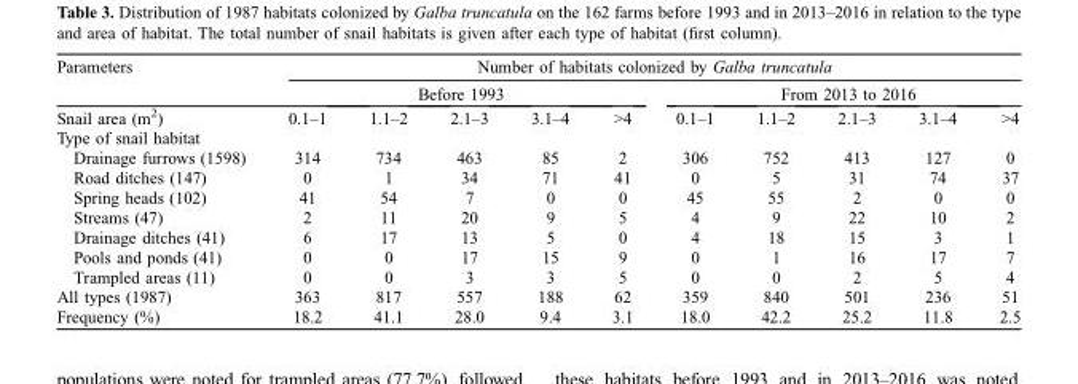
<table><thead><tr><td rowspan="3">Parameters Snail area (m<sup>2</sup>)</td><td colspan="10">Number of habitats colonized by Galba truncatula</td></tr><tr><td colspan="5">Before 1993</td><td colspan="5">From 2013 to 2016</td></tr><tr><td>0.1–1</td><td>1.1–2</td><td>2.1–3</td><td>3.1–4</td><td>&gt;4</td><td>0.1–1</td><td>1.1–2</td><td>2.1–3</td><td>3.1–4</td><td>&gt;4</td></tr></thead><tbody><tr><td colspan="11">Type of snail habitat</td></tr><tr><td>Drainage furrows (1598)</td><td>314</td><td>734</td><td>463</td><td>85</td><td>2</td><td>306</td><td>752</td><td>413</td><td>127</td><td>0</td></tr><tr><td>Road ditches (147)</td><td>0</td><td>1</td><td>34</td><td>71</td><td>41</td><td>0</td><td>5</td><td>31</td><td>74</td><td>37</td></tr><tr><td>Spring heads (102)</td><td>41</td><td>54</td><td>7</td><td>0</td><td>0</td><td>45</td><td>55</td><td>2</td><td>0</td><td>0</td></tr><tr><td>Streams (47)</td><td>2</td><td>11</td><td>20</td><td>9</td><td>5</td><td>4</td><td>9</td><td>22</td><td>10</td><td>2</td></tr><tr><td>Drainage ditches (41)</td><td>6</td><td>17</td><td>13</td><td>5</td><td>0</td><td>4</td><td>18</td><td>15</td><td>3</td><td>1</td></tr><tr><td>Pools and ponds (41)</td><td>0</td><td>0</td><td>17</td><td>15</td><td>9</td><td>0</td><td>1</td><td>16</td><td>17</td><td>7</td></tr><tr><td>Trampled areas (11)</td><td>0</td><td>0</td><td>3</td><td>3</td><td>5</td><td>0</td><td>0</td><td>2</td><td>5</td><td>4</td></tr><tr><td>All types (1987)</td><td>363</td><td>817</td><td>557</td><td>188</td><td>62</td><td>359</td><td>840</td><td>501</td><td>236</td><td>51</td></tr><tr><td>Frequency (%)</td><td>18.2</td><td>41.1</td><td>28.0</td><td>9.4</td><td>3.1</td><td>18.0</td><td>42.2</td><td>25.2</td><td>11.8</td><td>2.5</td></tr></tbody></table>